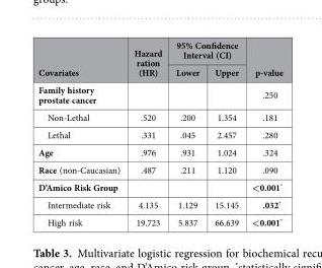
<table><thead><tr><td rowspan="2">Covariates</td><td rowspan="2">Hazard ration (HR)</td><td colspan="2">95% Confidence Interval (CI)</td><td rowspan="2">p-value</td></tr><tr><td>Lower</td><td>Upper</td></tr></thead><tbody><tr><td>Family history prostate cancer</td><td></td><td></td><td></td><td>.250</td></tr><tr><td>Non-Lethal</td><td>.520</td><td>.200</td><td>1.354</td><td>.181</td></tr><tr><td>Lethal</td><td>.331</td><td>.045</td><td>2.457</td><td>.280</td></tr><tr><td>Age</td><td>.976</td><td>.931</td><td>1.024</td><td>.324</td></tr><tr><td>Race (non-Caucasian)</td><td>.487</td><td>.211</td><td>1.120</td><td>.090</td></tr><tr><td>D’Amico Risk Group</td><td></td><td></td><td></td><td>&lt;0.001*</td></tr><tr><td>Intermediate risk</td><td>4.135</td><td>1.129</td><td>15.145</td><td>.032*</td></tr><tr><td>High risk</td><td>19.723</td><td>5.837</td><td>66.639</td><td>&lt;0.001*</td></tr></tbody></table>